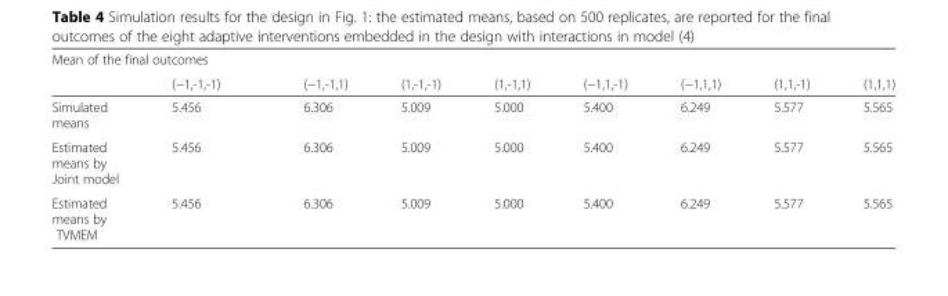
<table><tbody><tr><td colspan="9">Mean of the final outcomes</td></tr><tr><td></td><td>(−1,-1,-1)</td><td>(−1,-1,1)</td><td>(1,-1,-1)</td><td>(1,-1,1)</td><td>(−1,1,-1)</td><td>(−1,1,1)</td><td>(1,1,-1)</td><td>(1,1,1)</td></tr><tr><td>Simulated means</td><td>5.456</td><td>6.306</td><td>5.009</td><td>5.000</td><td>5.400</td><td>6.249</td><td>5.577</td><td>5.565</td></tr><tr><td>Estimated means by Joint model</td><td>5.456</td><td>6.306</td><td>5.009</td><td>5.000</td><td>5.400</td><td>6.249</td><td>5.577</td><td>5.565</td></tr><tr><td>Estimated means by TVMEM</td><td>5.456</td><td>6.306</td><td>5.009</td><td>5.000</td><td>5.400</td><td>6.249</td><td>5.577</td><td>5.565</td></tr></tbody></table>